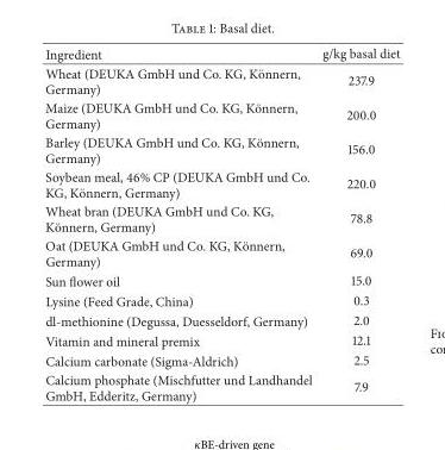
<table><thead><tr><td>Ingredient</td><td>g/kg basal diet</td></tr></thead><tbody><tr><td>Wheat (DEUKA GmbH und Co. KG, K¨onnern, Germany)</td><td>237.9</td></tr><tr><td>Maize (DEUKA GmbH und Co. KG, K¨onnern, Germany)</td><td>200.0</td></tr><tr><td>Barley (DEUKA GmbH und Co. KG, K¨onnern, Germany)</td><td>156.0</td></tr><tr><td>Soybean meal, 46% CP (DEUKA GmbH und Co. KG, K¨onnern, Germany)</td><td>220.0</td></tr><tr><td>Wheat bran (DEUKA GmbH und Co. KG, K¨onnern, Germany)</td><td>78.8</td></tr><tr><td>Oat (DEUKA GmbH und Co. KG, K¨onnern, Germany)</td><td>69.0</td></tr><tr><td>Sun flower oil</td><td>15.0</td></tr><tr><td>Lysine (Feed Grade, China)</td><td>0.3</td></tr><tr><td>dl-methionine (Degussa, Duesseldorf, Germany)</td><td>2.0</td></tr><tr><td>Vitamin and mineral premix</td><td>12.1</td></tr><tr><td>Calcium carbonate (Sigma-Aldrich)</td><td>2.5</td></tr><tr><td>Calcium phosphate (Mischfutter und Landhandel GmbH, Edderitz, Germany)</td><td>7.9</td></tr></tbody></table>